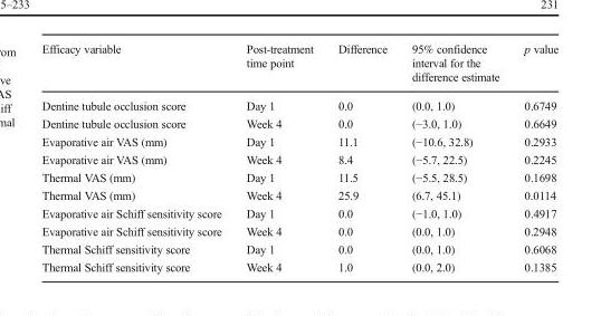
<table><thead><tr><td>Efficacy variable</td><td>Post-treatment time point</td><td>Difference</td><td>95% confidence interval for the difference estimate</td><td>p value</td></tr></thead><tbody><tr><td>Dentine tubule occlusion score</td><td>Day 1</td><td>0.0</td><td>(0.0, 1.0)</td><td>0.6749</td></tr><tr><td>Dentine tubule occlusion score</td><td>Week 4</td><td>0.0</td><td>(−3.0, 1.0)</td><td>0.6649</td></tr><tr><td>Evaporative air VAS (mm)</td><td>Day 1</td><td>11.1</td><td>(−10.6, 32.8)</td><td>0.2933</td></tr><tr><td>Evaporative air VAS (mm)</td><td>Week 4</td><td>8.4</td><td>(−5.7, 22.5)</td><td>0.2245</td></tr><tr><td>Thermal VAS (mm)</td><td>Day 1</td><td>11.5</td><td>(−5.5, 28.5)</td><td>0.1698</td></tr><tr><td>Thermal VAS (mm)</td><td>Week 4</td><td>25.9</td><td>(6.7, 45.1)</td><td>0.0114</td></tr><tr><td>Evaporative air Schiff sensitivity score</td><td>Day 1</td><td>0.0</td><td>(−1.0, 1.0)</td><td>0.4917</td></tr><tr><td>Evaporative air Schiff sensitivity score</td><td>Week 4</td><td>0.0</td><td>(0.0, 1.0)</td><td>0.2948</td></tr><tr><td>Thermal Schiff sensitivity score</td><td>Day 1</td><td>0.0</td><td>(0.0, 1.0)</td><td>0.6068</td></tr><tr><td>Thermal Schiff sensitivity score</td><td>Week 4</td><td>1.0</td><td>(0.0, 2.0)</td><td>0.1385</td></tr></tbody></table>